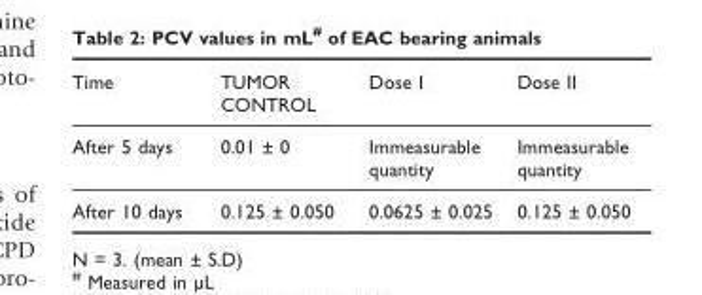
<table><thead><tr><td>Time</td><td>TUMOR CONTROL</td><td>Dose I</td><td>Dose II</td></tr></thead><tbody><tr><td>After 5 days</td><td>0.01 ± 0</td><td>Immeasurable quantity</td><td>Immeasurable quantity</td></tr><tr><td>After 10 days</td><td>0.125 ± 0.050</td><td>0.0625 ± 0.025</td><td>0.125 ± 0.050</td></tr></tbody></table>